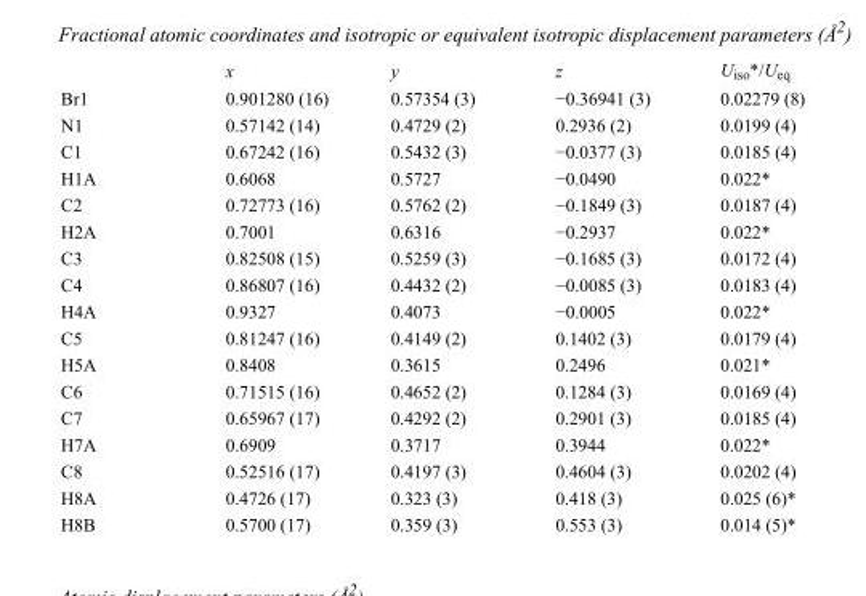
<table><thead><tr><td></td><td>x</td><td>y</td><td>z</td><td>U<sub>iso</sub>*/U<sub>eq</sub></td></tr></thead><tbody><tr><td>Br1</td><td>0.901280 (16)</td><td>0.57354 (3)</td><td>−0.36941 (3)</td><td>0.02279 (8)</td></tr><tr><td>N1</td><td>0.57142 (14)</td><td>0.4729 (2)</td><td>0.2936 (2)</td><td>0.0199 (4)</td></tr><tr><td>C1</td><td>0.67242 (16)</td><td>0.5432 (3)</td><td>−0.0377 (3)</td><td>0.0185 (4)</td></tr><tr><td>H1A</td><td>0.6068</td><td>0.5727</td><td>−0.0490</td><td>0.022*</td></tr><tr><td>C2</td><td>0.72773 (16)</td><td>0.5762 (2)</td><td>−0.1849 (3)</td><td>0.0187 (4)</td></tr><tr><td>H2A</td><td>0.7001</td><td>0.6316</td><td>−0.2937</td><td>0.022*</td></tr><tr><td>C3</td><td>0.82508 (15)</td><td>0.5259 (3)</td><td>−0.1685 (3)</td><td>0.0172 (4)</td></tr><tr><td>C4</td><td>0.86807 (16)</td><td>0.4432 (2)</td><td>−0.0085 (3)</td><td>0.0183 (4)</td></tr><tr><td>H4A</td><td>0.9327</td><td>0.4073</td><td>−0.0005</td><td>0.022*</td></tr><tr><td>C5</td><td>0.81247 (16)</td><td>0.4149 (2)</td><td>0.1402 (3)</td><td>0.0179 (4)</td></tr><tr><td>H5A</td><td>0.8408</td><td>0.3615</td><td>0.2496</td><td>0.021*</td></tr><tr><td>C6</td><td>0.71515 (16)</td><td>0.4652 (2)</td><td>0.1284 (3)</td><td>0.0169 (4)</td></tr><tr><td>C7</td><td>0.65967 (17)</td><td>0.4292 (2)</td><td>0.2901 (3)</td><td>0.0185 (4)</td></tr><tr><td>H7A</td><td>0.6909</td><td>0.3717</td><td>0.3944</td><td>0.022*</td></tr><tr><td>C8</td><td>0.52516 (17)</td><td>0.4197 (3)</td><td>0.4604 (3)</td><td>0.0202 (4)</td></tr><tr><td>H8A</td><td>0.4726 (17)</td><td>0.323 (3)</td><td>0.418 (3)</td><td>0.025 (6)*</td></tr><tr><td>H8B</td><td>0.5700 (17)</td><td>0.359 (3)</td><td>0.553 (3)</td><td>0.014 (5)*</td></tr></tbody></table>